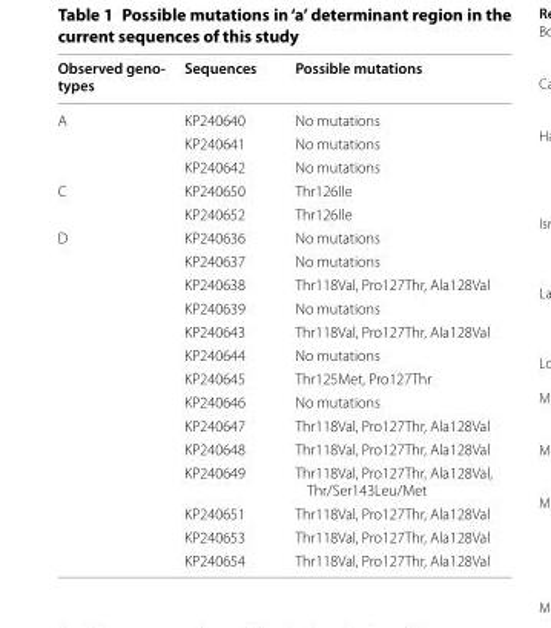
<table><thead><tr><td>Observed geno- types</td><td>Sequences</td><td>Possible mutations</td></tr></thead><tbody><tr><td rowspan="3">A</td><td>KP240640</td><td>No mutations</td></tr><tr><td>KP240641</td><td>No mutations</td></tr><tr><td>KP240642</td><td>No mutations</td></tr><tr><td rowspan="2">C</td><td>KP240650</td><td>Thr126Ile</td></tr><tr><td>KP240652</td><td>Thr126Ile</td></tr><tr><td rowspan="14">D</td><td>KP240636</td><td>No mutations</td></tr><tr><td>KP240637</td><td>No mutations</td></tr><tr><td>KP240638</td><td>Thr118Val, Pro127Thr, Ala128Val</td></tr><tr><td>KP240639</td><td>No mutations</td></tr><tr><td>KP240643</td><td>Thr118Val, Pro127Thr, Ala128Val</td></tr><tr><td>KP240644</td><td>No mutations</td></tr><tr><td>KP240645</td><td>Thr125Met, Pro127Thr</td></tr><tr><td>KP240646</td><td>No mutations</td></tr><tr><td>KP240647</td><td>Thr118Val, Pro127Thr, Ala128Val</td></tr><tr><td>KP240648</td><td>Thr118Val, Pro127Thr, Ala128Val</td></tr><tr><td>KP240649</td><td>Thr118Val, Pro127Thr, Ala128Val, Thr/Ser143Leu/Met</td></tr><tr><td>KP240651</td><td>Thr118Val, Pro127Thr, Ala128Val</td></tr><tr><td>KP240653</td><td>Thr118Val, Pro127Thr, Ala128Val</td></tr><tr><td>KP240654</td><td>Thr118Val, Pro127Thr, Ala128Val</td></tr></tbody></table>